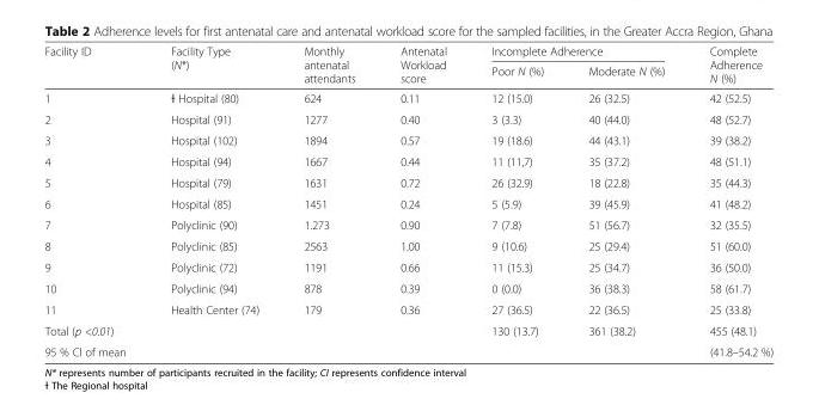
<table><thead><tr><td rowspan="2">Facility ID</td><td rowspan="2">Facility Type (N*)</td><td rowspan="2">Monthly antenatal attendants</td><td rowspan="2">Antenatal Workload score</td><td colspan="2">Incomplete Adherence</td><td rowspan="2">Complete Adherence N (%)</td></tr><tr><td>Poor N (%)</td><td>Moderate N (%)</td></tr></thead><tbody><tr><td>1</td><td>Ɨ Hospital (80)</td><td>624</td><td>0.11</td><td>12 (15.0)</td><td>26 (32.5)</td><td>42 (52.5)</td></tr><tr><td>2</td><td>Hospital (91)</td><td>1277</td><td>0.40</td><td>3 (3.3)</td><td>40 (44.0)</td><td>48 (52.7)</td></tr><tr><td>3</td><td>Hospital (102)</td><td>1894</td><td>0.57</td><td>19 (18.6)</td><td>44 (43.1)</td><td>39 (38.2)</td></tr><tr><td>4</td><td>Hospital (94)</td><td>1667</td><td>0.44</td><td>11 (11,7)</td><td>35 (37.2)</td><td>48 (51.1)</td></tr><tr><td>5</td><td>Hospital (79)</td><td>1631</td><td>0.72</td><td>26 (32.9)</td><td>18 (22.8)</td><td>35 (44.3)</td></tr><tr><td>6</td><td>Hospital (85)</td><td>1451</td><td>0.24</td><td>5 (5.9)</td><td>39 (45.9)</td><td>41 (48.2)</td></tr><tr><td>7</td><td>Polyclinic (90)</td><td>1.273</td><td>0.90</td><td>7 (7.8)</td><td>51 (56.7)</td><td>32 (35.5)</td></tr><tr><td>8</td><td>Polyclinic (85)</td><td>2563</td><td>1.00</td><td>9 (10.6)</td><td>25 (29.4)</td><td>51 (60.0)</td></tr><tr><td>9</td><td>Polyclinic (72)</td><td>1191</td><td>0.66</td><td>11 (15.3)</td><td>25 (34.7)</td><td>36 (50.0)</td></tr><tr><td>10</td><td>Polyclinic (94)</td><td>878</td><td>0.39</td><td>0 (0.0)</td><td>36 (38.3)</td><td>58 (61.7)</td></tr><tr><td>11</td><td>Health Center (74)</td><td>179</td><td>0.36</td><td>27 (36.5)</td><td>22 (36.5)</td><td>25 (33.8)</td></tr><tr><td>Total (p &lt;0.01)</td><td></td><td></td><td></td><td>130 (13.7)</td><td>361 (38.2)</td><td>455 (48.1)</td></tr><tr><td>95 % Cl of mean</td><td></td><td></td><td></td><td></td><td></td><td>(41.8–54.2 %)</td></tr></tbody></table>